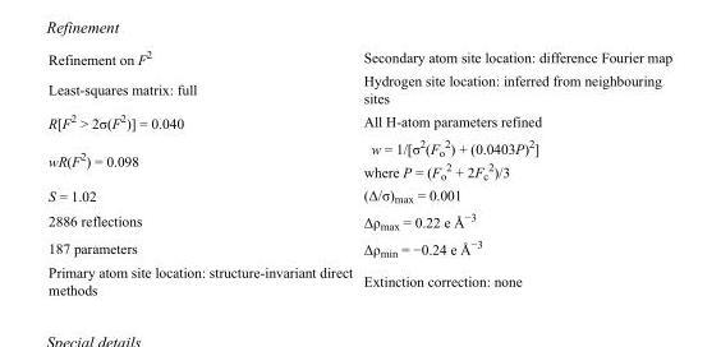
<table><tbody><tr><td>Refinement on F<sup>2</sup></td><td>Secondary atom site location: difference Fourier map</td></tr><tr><td>Least-squares matrix: full</td><td>Hydrogen site location: inferred from neighbouring sites</td></tr><tr><td>R[F<sup>2</sup> &gt; 2σ(F<sup>2</sup>)] = 0.040</td><td>All H-atom parameters refined</td></tr><tr><td>wR(F<sup>2</sup>) = 0.098</td><td>w = 1/[σ<sup>2</sup>(F<sub>o</sub> <sup>2</sup>) + (0.0403P)<sup>2</sup>] where P = (F<sub>o</sub> <sup>2</sup> + 2F<sub>c</sub> <sup>2</sup>)/3</td></tr><tr><td>S = 1.02</td><td>(Δ/σ)<sub>max</sub> = 0.001</td></tr><tr><td>2886 reflections</td><td>Δρ<sub>max</sub> = 0.22 e Å<sup>−3</sup></td></tr><tr><td>187 parameters</td><td>Δρ<sub>min</sub> = −0.24 e Å<sup>−3</sup></td></tr><tr><td>Primary atom site location: structure-invariant direct methods</td><td>Extinction correction: none</td></tr></tbody></table>